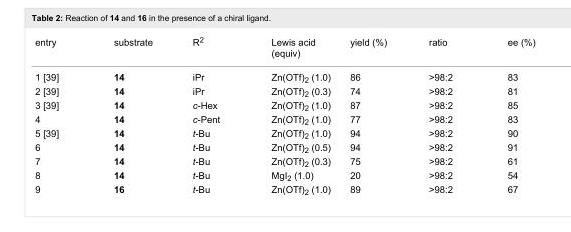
<table><tbody><tr><td>entry</td><td>substrate</td><td>R<sup>2</sup></td><td>Lewis acid (equiv)</td><td>yield (%)</td><td>ratio</td><td>ee (%)</td></tr><tr><td>1 [39]</td><td>14</td><td>iPr</td><td>Zn(OTf)<sub>2</sub> (1.0)</td><td>86</td><td>&gt;98:2</td><td>83</td></tr><tr><td>2 [39]</td><td>14</td><td>iPr</td><td>Zn(OTf)<sub>2</sub> (0.3)</td><td>74</td><td>&gt;98:2</td><td>81</td></tr><tr><td>3 [39]</td><td>14</td><td>c-Hex</td><td>Zn(OTf)<sub>2</sub> (1.0)</td><td>87</td><td>&gt;98:2</td><td>85</td></tr><tr><td>4</td><td>14</td><td>c-Pent</td><td>Zn(OTf)<sub>2</sub> (1.0)</td><td>77</td><td>&gt;98:2</td><td>83</td></tr><tr><td>5 [39]</td><td>14</td><td>t-Bu</td><td>Zn(OTf)<sub>2</sub> (1.0)</td><td>94</td><td>&gt;98:2</td><td>90</td></tr><tr><td>6</td><td>14</td><td>t-Bu</td><td>Zn(OTf)<sub>2</sub> (0.5)</td><td>94</td><td>&gt;98:2</td><td>91</td></tr><tr><td>7</td><td>14</td><td>t-Bu</td><td>Zn(OTf)<sub>2</sub> (0.3)</td><td>75</td><td>&gt;98:2</td><td>61</td></tr><tr><td>8</td><td>14</td><td>t-Bu</td><td>MgI<sub>2</sub> (1.0)</td><td>20</td><td>&gt;98:2</td><td>54</td></tr><tr><td>9</td><td>16</td><td>t-Bu</td><td>Zn(OTf)<sub>2</sub> (1.0)</td><td>89</td><td>&gt;98:2</td><td>67</td></tr></tbody></table>